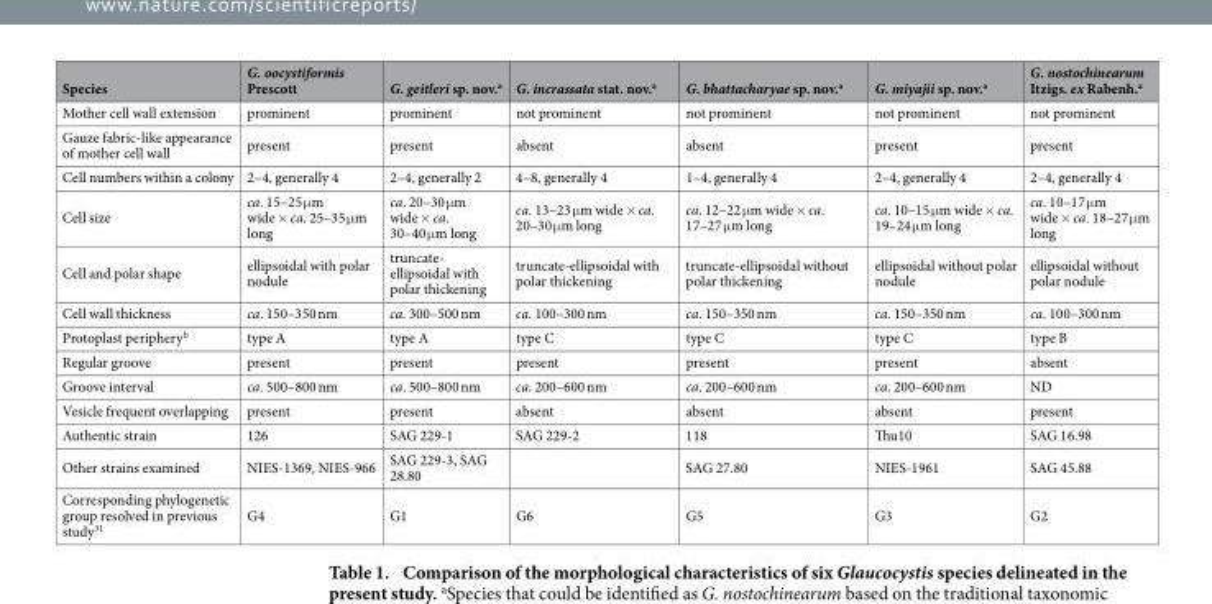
<table><thead><tr><td>Species</td><td>G. oocystiformis Prescott</td><td>G. geitleri sp. nov.<sup>a</sup></td><td>G. incrassata stat. nov.<sup>a</sup></td><td>G. bhattacharyae sp. nov.<sup>a</sup></td><td>G. miyajii sp. nov.<sup>a</sup></td><td>G. nostochinearum Itzigs. ex Rabenh.<sup>a</sup></td></tr></thead><tbody><tr><td>Mother cell wall extension</td><td>prominent</td><td>prominent</td><td>not prominent</td><td>not prominent</td><td>not prominent</td><td>not prominent</td></tr><tr><td>Gauze fabric-like appearance of mother cell wall</td><td>present</td><td>present</td><td>absent</td><td>absent</td><td>present</td><td>present</td></tr><tr><td>Cell numbers within a colony</td><td>2–4, generally 4</td><td>2–4, generally 2</td><td>4–8, generally 4</td><td>1–4, generally 4</td><td>2–4, generally 4</td><td>2–4, generally 4</td></tr><tr><td>Cell size</td><td>ca. 15–25 μm wide × ca. 25–35 μm long</td><td>ca. 20–30 μm wide × ca. 30–40 μm long</td><td>ca. 13–23 μm wide × ca. 20–30 μm long</td><td>ca. 12–22 μm wide × ca. 17–27 μm long</td><td>ca. 10–15 μm wide × ca. 19–24 μm long</td><td>ca. 10–17 μm wide × ca. 18–27 μm long</td></tr><tr><td>Cell and polar shape</td><td>ellipsoidal with polar nodule</td><td>truncate- ellipsoidal with polar thickening</td><td>truncate-ellipsoidal with polar thickening</td><td>truncate-ellipsoidal without polar thickening</td><td>ellipsoidal without polar nodule</td><td>ellipsoidal without polar nodule</td></tr><tr><td>Cell wall thickness</td><td>ca. 150–350 nm</td><td>ca. 300–500 nm</td><td>ca. 100–300 nm</td><td>ca. 150–350 nm</td><td>ca. 150–350 nm</td><td>ca. 100–300 nm</td></tr><tr><td>Protoplast periphery<sup>b</sup></td><td>type A</td><td>type A</td><td>type C</td><td>type C</td><td>type C</td><td>type B</td></tr><tr><td>Regular groove</td><td>present</td><td>present</td><td>present</td><td>present</td><td>present</td><td>absent</td></tr><tr><td>Groove interval</td><td>ca. 500–800 nm</td><td>ca. 500–800 nm</td><td>ca. 200–600 nm</td><td>ca. 200–600 nm</td><td>ca. 200–600 nm</td><td>ND</td></tr><tr><td>Vesicle frequent overlapping</td><td>present</td><td>present</td><td>absent</td><td>absent</td><td>absent</td><td>present</td></tr><tr><td>Authentic strain</td><td>126</td><td>SAG 229-1</td><td>SAG 229-2</td><td>118</td><td>Thu10</td><td>SAG 16.98</td></tr><tr><td>Other strains examined</td><td>NIES-1369, NIES-966</td><td>SAG 229-3, SAG 28.80</td><td></td><td>SAG 27.80</td><td>NIES-1961</td><td>SAG 45.88</td></tr><tr><td>Corresponding phylogenetic group resolved in previous study<sup>31</sup></td><td>G4</td><td>G1</td><td>G6</td><td>G5</td><td>G3</td><td>G2</td></tr></tbody></table>